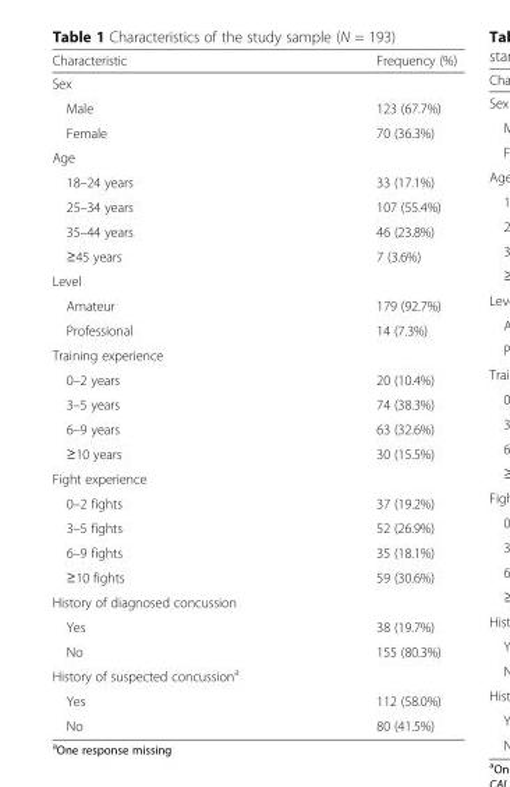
<table><thead><tr><td>Characteristic</td><td>Frequency (%)</td></tr></thead><tbody><tr><td colspan="2">Sex</td></tr><tr><td>Male</td><td>123 (67.7%)</td></tr><tr><td>Female</td><td>70 (36.3%)</td></tr><tr><td colspan="2">Age</td></tr><tr><td>18–24 years</td><td>33 (17.1%)</td></tr><tr><td>25–34 years</td><td>107 (55.4%)</td></tr><tr><td>35–44 years</td><td>46 (23.8%)</td></tr><tr><td>≥45 years</td><td>7 (3.6%)</td></tr><tr><td colspan="2">Level</td></tr><tr><td>Amateur</td><td>179 (92.7%)</td></tr><tr><td>Professional</td><td>14 (7.3%)</td></tr><tr><td colspan="2">Training experience</td></tr><tr><td>0–2 years</td><td>20 (10.4%)</td></tr><tr><td>3–5 years</td><td>74 (38.3%)</td></tr><tr><td>6–9 years</td><td>63 (32.6%)</td></tr><tr><td>≥10 years</td><td>30 (15.5%)</td></tr><tr><td colspan="2">Fight experience</td></tr><tr><td>0–2 fights</td><td>37 (19.2%)</td></tr><tr><td>3–5 fights</td><td>52 (26.9%)</td></tr><tr><td>6–9 fights</td><td>35 (18.1%)</td></tr><tr><td>≥10 fights</td><td>59 (30.6%)</td></tr><tr><td colspan="2">History of diagnosed concussion</td></tr><tr><td>Yes</td><td>38 (19.7%)</td></tr><tr><td>No</td><td>155 (80.3%)</td></tr><tr><td colspan="2">History of suspected concussion<sup>a</sup></td></tr><tr><td>Yes</td><td>112 (58.0%)</td></tr><tr><td>No</td><td>80 (41.5%)</td></tr></tbody></table>